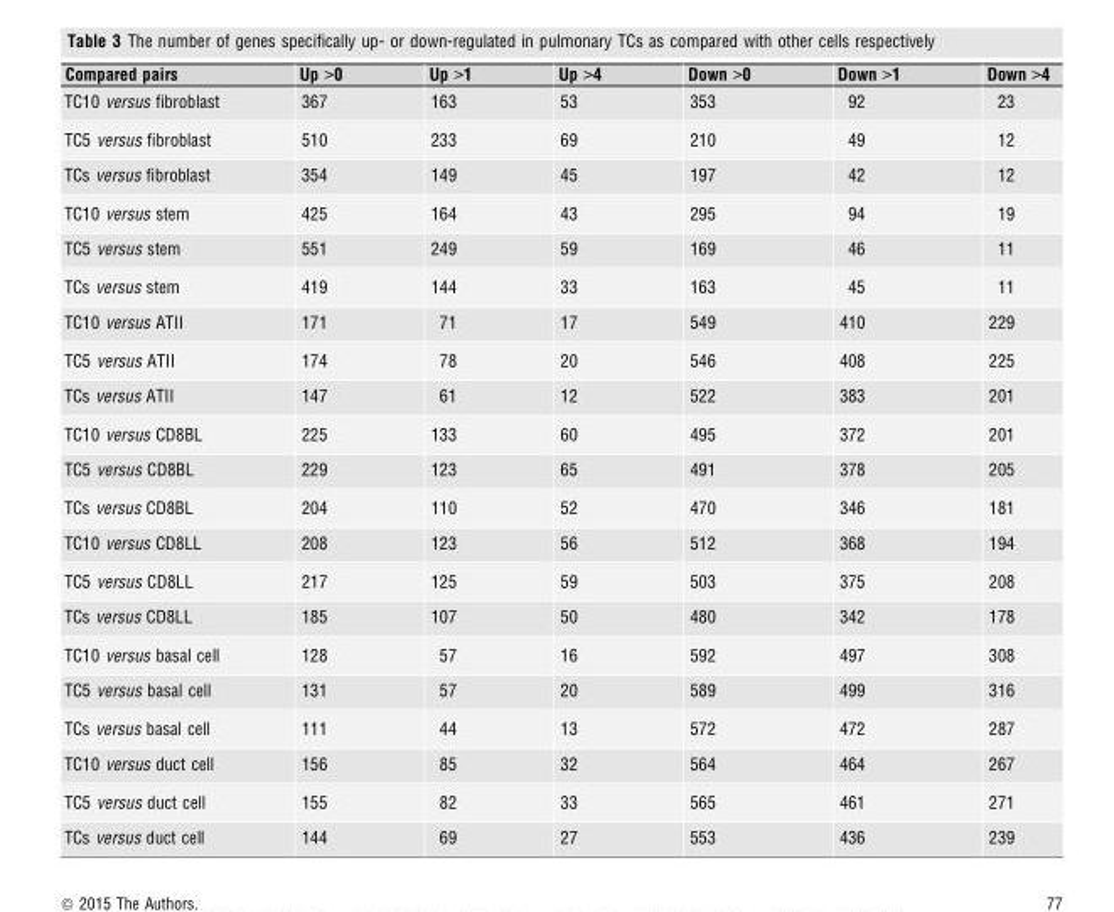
<table><thead><tr><td>Compared pairs</td><td>Up &gt;0</td><td>Up &gt;1</td><td>Up &gt;4</td><td>Down &gt;0</td><td>Down &gt;1</td><td>Down &gt;4</td></tr></thead><tbody><tr><td>TC10 versus fibroblast</td><td>367</td><td>163</td><td>53</td><td>353</td><td>92</td><td>23</td></tr><tr><td>TC5 versus fibroblast</td><td>510</td><td>233</td><td>69</td><td>210</td><td>49</td><td>12</td></tr><tr><td>TCs versus fibroblast</td><td>354</td><td>149</td><td>45</td><td>197</td><td>42</td><td>12</td></tr><tr><td>TC10 versus stem</td><td>425</td><td>164</td><td>43</td><td>295</td><td>94</td><td>19</td></tr><tr><td>TC5 versus stem</td><td>551</td><td>249</td><td>59</td><td>169</td><td>46</td><td>11</td></tr><tr><td>TCs versus stem</td><td>419</td><td>144</td><td>33</td><td>163</td><td>45</td><td>11</td></tr><tr><td>TC10 versus ATII</td><td>171</td><td>71</td><td>17</td><td>549</td><td>410</td><td>229</td></tr><tr><td>TC5 versus ATII</td><td>174</td><td>78</td><td>20</td><td>546</td><td>408</td><td>225</td></tr><tr><td>TCs versus ATII</td><td>147</td><td>61</td><td>12</td><td>522</td><td>383</td><td>201</td></tr><tr><td>TC10 versus CD8BL</td><td>225</td><td>133</td><td>60</td><td>495</td><td>372</td><td>201</td></tr><tr><td>TC5 versus CD8BL</td><td>229</td><td>123</td><td>65</td><td>491</td><td>378</td><td>205</td></tr><tr><td>TCs versus CD8BL</td><td>204</td><td>110</td><td>52</td><td>470</td><td>346</td><td>181</td></tr><tr><td>TC10 versus CD8LL</td><td>208</td><td>123</td><td>56</td><td>512</td><td>368</td><td>194</td></tr><tr><td>TC5 versus CD8LL</td><td>217</td><td>125</td><td>59</td><td>503</td><td>375</td><td>208</td></tr><tr><td>TCs versus CD8LL</td><td>185</td><td>107</td><td>50</td><td>480</td><td>342</td><td>178</td></tr><tr><td>TC10 versus basal cell</td><td>128</td><td>57</td><td>16</td><td>592</td><td>497</td><td>308</td></tr><tr><td>TC5 versus basal cell</td><td>131</td><td>57</td><td>20</td><td>589</td><td>499</td><td>316</td></tr><tr><td>TCs versus basal cell</td><td>111</td><td>44</td><td>13</td><td>572</td><td>472</td><td>287</td></tr><tr><td>TC10 versus duct cell</td><td>156</td><td>85</td><td>32</td><td>564</td><td>464</td><td>267</td></tr><tr><td>TC5 versus duct cell</td><td>155</td><td>82</td><td>33</td><td>565</td><td>461</td><td>271</td></tr><tr><td>TCs versus duct cell</td><td>144</td><td>69</td><td>27</td><td>553</td><td>436</td><td>239</td></tr></tbody></table>